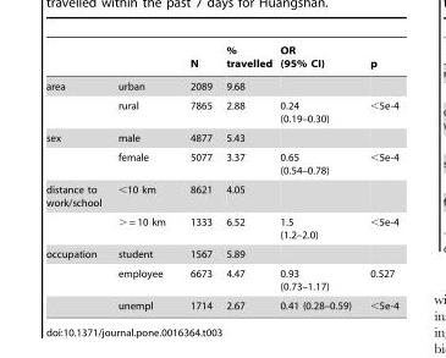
<table><thead><tr><td></td><td></td><td>N</td><td>% travelled</td><td>OR (95% CI)</td><td>p</td></tr></thead><tbody><tr><td rowspan="2">area</td><td>urban</td><td>2089</td><td>9.68</td><td></td><td></td></tr><tr><td>rural</td><td>7865</td><td>2.88</td><td>0.24 (0.19–0.30)</td><td>&lt;5e-4</td></tr><tr><td rowspan="2">sex</td><td>male</td><td>4877</td><td>5.43</td><td></td><td></td></tr><tr><td>female</td><td>5077</td><td>3.37</td><td>0.65 (0.54–0.78)</td><td>&lt;5e-4</td></tr><tr><td rowspan="2">distance to work/school</td><td>&lt;10 km</td><td>8621</td><td>4.05</td><td></td><td></td></tr><tr><td>&gt; = 10 km</td><td>1333</td><td>6.52</td><td>1.5 (1.2–2.0)</td><td>&lt;5e-4</td></tr><tr><td rowspan="3">occupation</td><td>student</td><td>1567</td><td>5.89</td><td></td><td></td></tr><tr><td>employee</td><td>6673</td><td>4.47</td><td>0.93 (0.73–1.17)</td><td>0.527</td></tr><tr><td>unempl</td><td>1714</td><td>2.67</td><td>0.41 (0.28–0.59)</td><td>&lt;5e-4</td></tr></tbody></table>